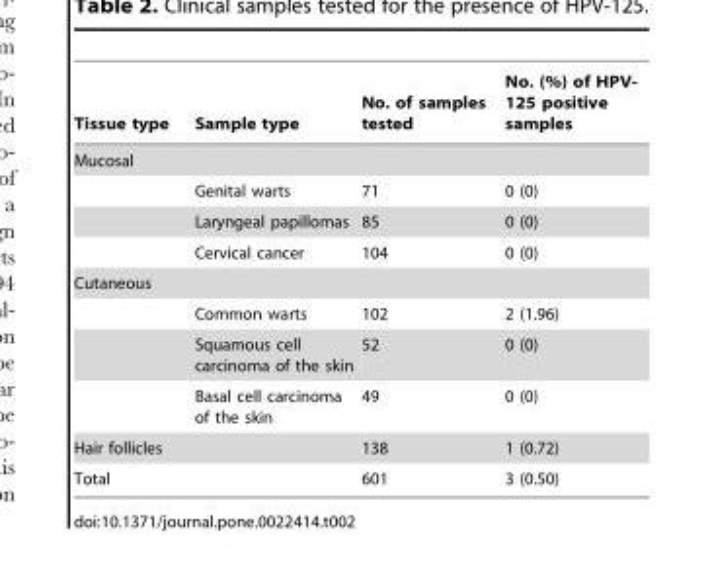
<table><thead><tr><td>Tissue type</td><td>Sample type</td><td>No. of samples tested</td><td>No. (%) of HPV- 125 positive samples</td></tr></thead><tbody><tr><td colspan="4">Mucosal</td></tr><tr><td></td><td>Genital warts</td><td>71</td><td>0 (0)</td></tr><tr><td></td><td>Laryngeal papillomas</td><td>85</td><td>0 (0)</td></tr><tr><td></td><td>Cervical cancer</td><td>104</td><td>0 (0)</td></tr><tr><td colspan="4">Cutaneous</td></tr><tr><td></td><td>Common warts</td><td>102</td><td>2 (1.96)</td></tr><tr><td></td><td>Squamous cell carcinoma of the skin</td><td>52</td><td>0 (0)</td></tr><tr><td></td><td>Basal cell carcinoma of the skin</td><td>49</td><td>0 (0)</td></tr><tr><td>Hair follicles</td><td></td><td>138</td><td>1 (0.72)</td></tr><tr><td>Total</td><td></td><td>601</td><td>3 (0.50)</td></tr></tbody></table>